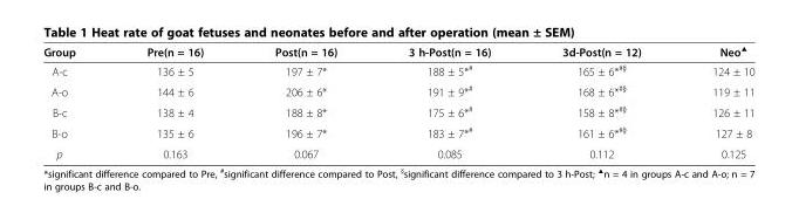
<table><thead><tr><td>Group</td><td>Pre(n = 16)</td><td>Post(n = 16)</td><td>3 h-Post(n = 16)</td><td>3d-Post(n = 12)</td><td>Neo▲</td></tr></thead><tbody><tr><td>A-c</td><td>136 ± 5</td><td>197 ± 7*</td><td>188 ± 5*<sup>#</sup></td><td>165 ± 6*<sup>#§</sup></td><td>124 ± 10</td></tr><tr><td>A-o</td><td>144 ± 6</td><td>206 ± 6*</td><td>191 ± 9*<sup>#</sup></td><td>168 ± 6*<sup>#§</sup></td><td>119 ± 11</td></tr><tr><td>B-c</td><td>138 ± 4</td><td>188 ± 8*</td><td>175 ± 6*<sup>#</sup></td><td>158 ± 8*<sup>#§</sup></td><td>126 ± 11</td></tr><tr><td>B-o</td><td>135 ± 6</td><td>196 ± 7*</td><td>183 ± 7*<sup>#</sup></td><td>161 ± 6*<sup>#§</sup></td><td>127 ± 8</td></tr><tr><td>p</td><td>0.163</td><td>0.067</td><td>0.085</td><td>0.112</td><td>0.125</td></tr></tbody></table>